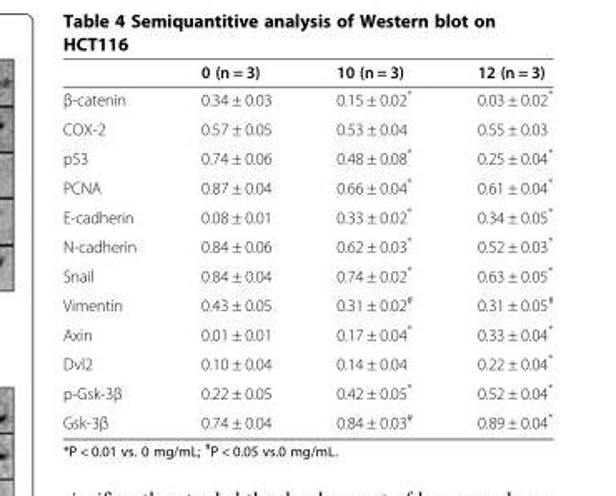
<table><thead><tr><td></td><td>0 (n = 3)</td><td>10 (n = 3)</td><td>12 (n = 3)</td></tr></thead><tbody><tr><td>β-catenin</td><td>0.34 ± 0.03</td><td>0.15 ± 0.02*</td><td>0.03 ± 0.02*</td></tr><tr><td>COX-2</td><td>0.57 ± 0.05</td><td>0.53 ± 0.04</td><td>0.55 ± 0.03</td></tr><tr><td>p53</td><td>0.74 ± 0.06</td><td>0.48 ± 0.08*</td><td>0.25 ± 0.04*</td></tr><tr><td>PCNA</td><td>0.87 ± 0.04</td><td>0.66 ± 0.04*</td><td>0.61 ± 0.04*</td></tr><tr><td>E-cadherin</td><td>0.08 ± 0.01</td><td>0.33 ± 0.02*</td><td>0.34 ± 0.05*</td></tr><tr><td>N-cadherin</td><td>0.84 ± 0.06</td><td>0.62 ± 0.03*</td><td>0.52 ± 0.03*</td></tr><tr><td>Snail</td><td>0.84 ± 0.04</td><td>0.74 ± 0.02*</td><td>0.63 ± 0.05*</td></tr><tr><td>Vimentin</td><td>0.43 ± 0.05</td><td>0.31 ± 0.02<sup>#</sup></td><td>0.31 ± 0.05<sup>#</sup></td></tr><tr><td>Axin</td><td>0.01 ± 0.01</td><td>0.17 ± 0.04*</td><td>0.33 ± 0.04*</td></tr><tr><td>Dvl2</td><td>0.10 ± 0.04</td><td>0.14 ± 0.04</td><td>0.22 ± 0.04*</td></tr><tr><td>p-Gsk-3β</td><td>0.22 ± 0.05</td><td>0.42 ± 0.05*</td><td>0.52 ± 0.04*</td></tr><tr><td>Gsk-3β</td><td>0.74 ± 0.04</td><td>0.84 ± 0.03<sup>#</sup></td><td>0.89 ± 0.04*</td></tr></tbody></table>